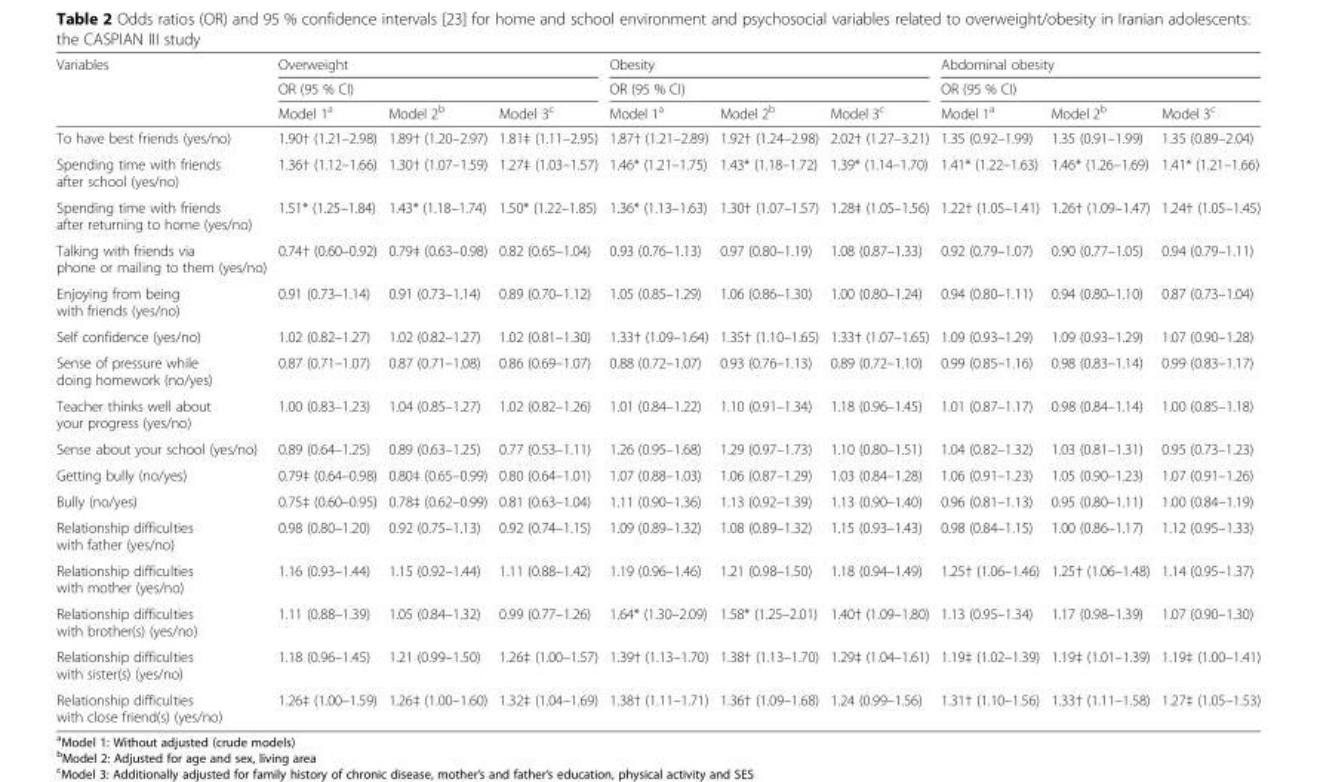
<table><thead><tr><td rowspan="3">Variables</td><td rowspan="2" colspan="3">Overweight OR (95 % CI)</td><td rowspan="2" colspan="3">Obesity OR (95 % CI)</td><td rowspan="2" colspan="3">Abdominal obesity OR (95 % CI)</td></tr><tr></tr><tr><td>Model 1<sup>a</sup></td><td>Model 2<sup>b</sup></td><td>Model 3<sup>c</sup></td><td>Model 1<sup>a</sup></td><td>Model 2<sup>b</sup></td><td>Model 3<sup>c</sup></td><td>Model 1<sup>a</sup></td><td>Model 2<sup>b</sup></td><td>Model 3<sup>c</sup></td></tr></thead><tbody><tr><td>To have best friends (yes/no)</td><td>1.90† (1.21–2.98)</td><td>1.89† (1.20–2.97)</td><td>1.81‡ (1.11–2.95)</td><td>1.87† (1.21–2.89)</td><td>1.92† (1.24–2.98)</td><td>2.02† (1.27–3.21)</td><td>1.35 (0.92–1.99)</td><td>1.35 (0.91–1.99)</td><td>1.35 (0.89–2.04)</td></tr><tr><td>Spending time with friends after school (yes/no)</td><td>1.36† (1.12–1.66)</td><td>1.30† (1.07–1.59)</td><td>1.27‡ (1.03–1.57)</td><td>1.46* (1.21–1.75)</td><td>1.43* (1.18–1.72)</td><td>1.39* (1.14–1.70)</td><td>1.41* (1.22–1.63)</td><td>1.46* (1.26–1.69)</td><td>1.41* (1.21–1.66)</td></tr><tr><td>Spending time with friends after returning to home (yes/no)</td><td>1.51* (1.25–1.84)</td><td>1.43* (1.18–1.74)</td><td>1.50* (1.22–1.85)</td><td>1.36* (1.13–1.63)</td><td>1.30† (1.07–1.57)</td><td>1.28‡ (1.05–1.56)</td><td>1.22† (1.05–1.41)</td><td>1.26† (1.09–1.47)</td><td>1.24† (1.05–1.45)</td></tr><tr><td>Talking with friends via phone or mailing to them (yes/no)</td><td>0.74† (0.60–0.92)</td><td>0.79‡ (0.63–0.98)</td><td>0.82 (0.65–1.04)</td><td>0.93 (0.76–1.13)</td><td>0.97 (0.80–1.19)</td><td>1.08 (0.87–1.33)</td><td>0.92 (0.79–1.07)</td><td>0.90 (0.77–1.05)</td><td>0.94 (0.79–1.11)</td></tr><tr><td>Enjoying from being with friends (yes/no)</td><td>0.91 (0.73–1.14)</td><td>0.91 (0.73–1.14)</td><td>0.89 (0.70–1.12)</td><td>1.05 (0.85–1.29)</td><td>1.06 (0.86–1.30)</td><td>1.00 (0.80–1.24)</td><td>0.94 (0.80–1.11)</td><td>0.94 (0.80–1.10)</td><td>0.87 (0.73–1.04)</td></tr><tr><td>Self confidence (yes/no)</td><td>1.02 (0.82–1.27)</td><td>1.02 (0.82–1.27)</td><td>1.02 (0.81–1.30)</td><td>1.33† (1.09–1.64)</td><td>1.35† (1.10–1.65)</td><td>1.33† (1.07–1.65)</td><td>1.09 (0.93–1.29)</td><td>1.09 (0.93–1.29)</td><td>1.07 (0.90–1.28)</td></tr><tr><td>Sense of pressure while doing homework (no/yes)</td><td>0.87 (0.71–1.07)</td><td>0.87 (0.71–1.08)</td><td>0.86 (0.69–1.07)</td><td>0.88 (0.72–1.07)</td><td>0.93 (0.76–1.13)</td><td>0.89 (0.72–1.10)</td><td>0.99 (0.85–1.16)</td><td>0.98 (0.83–1.14)</td><td>0.99 (0.83–1.17)</td></tr><tr><td>Teacher thinks well about your progress (yes/no)</td><td>1.00 (0.83–1.23)</td><td>1.04 (0.85–1.27)</td><td>1.02 (0.82–1.26)</td><td>1.01 (0.84–1.22)</td><td>1.10 (0.91–1.34)</td><td>1.18 (0.96–1.45)</td><td>1.01 (0.87–1.17)</td><td>0.98 (0.84–1.14)</td><td>1.00 (0.85–1.18)</td></tr><tr><td>Sense about your school (yes/no)</td><td>0.89 (0.64–1.25)</td><td>0.89 (0.63–1.25)</td><td>0.77 (0.53–1.11)</td><td>1.26 (0.95–1.68)</td><td>1.29 (0.97–1.73)</td><td>1.10 (0.80–1.51)</td><td>1.04 (0.82–1.32)</td><td>1.03 (0.81–1.31)</td><td>0.95 (0.73–1.23)</td></tr><tr><td>Getting bully (no/yes)</td><td>0.79‡ (0.64–0.98)</td><td>0.80‡ (0.65–0.99)</td><td>0.80 (0.64–1.01)</td><td>1.07 (0.88–1.03)</td><td>1.06 (0.87–1.29)</td><td>1.03 (0.84–1.28)</td><td>1.06 (0.91–1.23)</td><td>1.05 (0.90–1.23)</td><td>1.07 (0.91–1.26)</td></tr><tr><td>Bully (no/yes)</td><td>0.75‡ (0.60–0.95)</td><td>0.78‡ (0.62–0.99)</td><td>0.81 (0.63–1.04)</td><td>1.11 (0.90–1.36)</td><td>1.13 (0.92–1.39)</td><td>1.13 (0.90–1.40)</td><td>0.96 (0.81–1.13)</td><td>0.95 (0.80–1.11)</td><td>1.00 (0.84–1.19)</td></tr><tr><td>Relationship difficulties with father (yes/no)</td><td>0.98 (0.80–1.20)</td><td>0.92 (0.75–1.13)</td><td>0.92 (0.74–1.15)</td><td>1.09 (0.89–1.32)</td><td>1.08 (0.89–1.32)</td><td>1.15 (0.93–1.43)</td><td>0.98 (0.84–1.15)</td><td>1.00 (0.86–1.17)</td><td>1.12 (0.95–1.33)</td></tr><tr><td>Relationship difficulties with mother (yes/no)</td><td>1.16 (0.93–1.44)</td><td>1.15 (0.92–1.44)</td><td>1.11 (0.88–1.42)</td><td>1.19 (0.96–1.46)</td><td>1.21 (0.98–1.50)</td><td>1.18 (0.94–1.49)</td><td>1.25† (1.06–1.46)</td><td>1.25† (1.06–1.48)</td><td>1.14 (0.95–1.37)</td></tr><tr><td>Relationship difficulties with brother(s) (yes/no)</td><td>1.11 (0.88–1.39)</td><td>1.05 (0.84–1.32)</td><td>0.99 (0.77–1.26)</td><td>1.64* (1.30–2.09)</td><td>1.58* (1.25–2.01)</td><td>1.40† (1.09–1.80)</td><td>1.13 (0.95–1.34)</td><td>1.17 (0.98–1.39)</td><td>1.07 (0.90–1.30)</td></tr><tr><td>Relationship difficulties with sister(s) (yes/no)</td><td>1.18 (0.96–1.45)</td><td>1.21 (0.99–1.50)</td><td>1.26‡ (1.00–1.57)</td><td>1.39† (1.13–1.70)</td><td>1.38† (1.13–1.70)</td><td>1.29‡ (1.04–1.61)</td><td>1.19‡ (1.02–1.39)</td><td>1.19‡ (1.01–1.39)</td><td>1.19‡ (1.00–1.41)</td></tr><tr><td>Relationship difficulties with close friend(s) (yes/no)</td><td>1.26‡ (1.00–1.59)</td><td>1.26‡ (1.00–1.60)</td><td>1.32‡ (1.04–1.69)</td><td>1.38† (1.11–1.71)</td><td>1.36† (1.09–1.68)</td><td>1.24 (0.99–1.56)</td><td>1.31† (1.10–1.56)</td><td>1.33† (1.11–1.58)</td><td>1.27‡ (1.05–1.53)</td></tr></tbody></table>